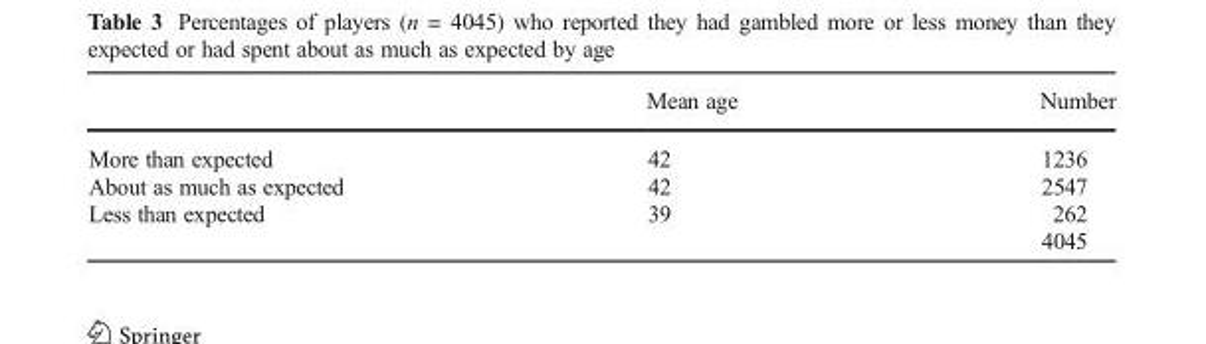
<table><thead><tr><td></td><td>Mean age</td><td>Number</td></tr></thead><tbody><tr><td>More than expected</td><td>42</td><td>1236</td></tr><tr><td>About as much as expected</td><td>42</td><td>2547</td></tr><tr><td rowspan="2">Less than expected</td><td>39</td><td>262</td></tr><tr><td></td><td>4045</td></tr></tbody></table>